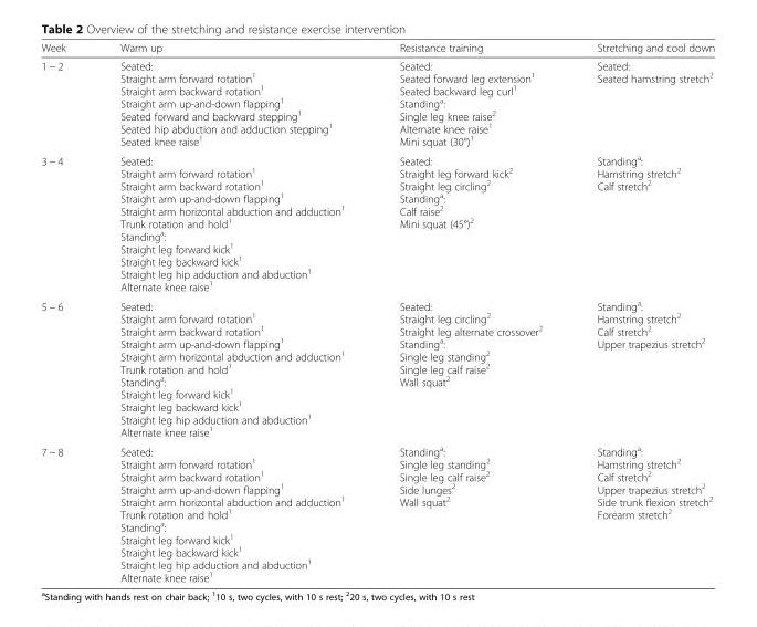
<table><thead><tr><td>Week</td><td>Warm up</td><td>Resistance training</td><td>Stretching and cool down</td></tr></thead><tbody><tr><td>1 − 2</td><td>Seated: Straight arm forward rotation<sup>1</sup> Straight arm backward rotation<sup>1</sup> Straight arm up-and-down flapping<sup>1</sup> Seated forward and backward stepping<sup>1</sup> Seated hip abduction and adduction stepping<sup>1</sup> Seated knee raise<sup>1</sup></td><td>Seated: Seated forward leg extension<sup>1</sup> Seated backward leg curl<sup>1</sup> Standing<sup>a</sup>: Single leg knee raise<sup>2</sup> Alternate knee raise<sup>1</sup> Mini squat (30°)<sup>1</sup></td><td>Seated: Seated hamstring stretch<sup>2</sup></td></tr><tr><td>3 − 4</td><td>Seated: Straight arm forward rotation<sup>1</sup> Straight arm backward rotation<sup>1</sup> Straight arm up-and-down flapping<sup>1</sup> Straight arm horizontal abduction and adduction<sup>1</sup> Trunk rotation and hold<sup>1</sup> Standing<sup>a</sup>: Straight leg forward kick<sup>1</sup> Straight leg backward kick<sup>1</sup> Straight leg hip adduction and abduction<sup>1</sup> Alternate knee raise<sup>1</sup></td><td>Seated: Straight leg forward kick<sup>2</sup> Straight leg circling<sup>2</sup> Standing<sup>a</sup>: Calf raise<sup>2</sup> Mini squat (45°)<sup>2</sup></td><td>Standing<sup>a</sup>: Hamstring stretch<sup>2</sup> Calf stretch<sup>2</sup></td></tr><tr><td>5 − 6</td><td>Seated: Straight arm forward rotation<sup>1</sup> Straight arm backward rotation<sup>1</sup> Straight arm up-and-down flapping<sup>1</sup> Straight arm horizontal abduction and adduction<sup>1</sup> Trunk rotation and hold<sup>1</sup> Standing<sup>a</sup>: Straight leg forward kick<sup>1</sup> Straight leg backward kick<sup>1</sup> Straight leg hip adduction and abduction<sup>1</sup> Alternate knee raise<sup>1</sup></td><td>Seated: Straight leg circling<sup>2</sup> Straight leg alternate crossover<sup>2</sup> Standing<sup>a</sup>: Single leg standing<sup>2</sup> Single leg calf raise<sup>2</sup> Wall squat<sup>2</sup></td><td>Standing<sup>a</sup>: Hamstring stretch<sup>2</sup> Calf stretch<sup>2</sup> Upper trapezius stretch<sup>2</sup></td></tr><tr><td>7 − 8</td><td>Seated: Straight arm forward rotation<sup>1</sup> Straight arm backward rotation<sup>1</sup> Straight arm up-and-down flapping<sup>1</sup> Straight arm horizontal abduction and adduction<sup>1</sup> Trunk rotation and hold<sup>1</sup> Standing<sup>a</sup>: Straight leg forward kick<sup>1</sup> Straight leg backward kick<sup>1</sup> Straight leg hip adduction and abduction<sup>1</sup> Alternate knee raise<sup>1</sup></td><td>Standing<sup>a</sup>: Single leg standing<sup>2</sup> Single leg calf raise<sup>2</sup> Side lunges<sup>2</sup> Wall squat<sup>2</sup></td><td>Standing<sup>a</sup>: Hamstring stretch<sup>2</sup> Calf stretch<sup>2</sup> Upper trapezius stretch<sup>2</sup> Side trunk flexion stretch<sup>2</sup> Forearm stretch<sup>2</sup></td></tr></tbody></table>